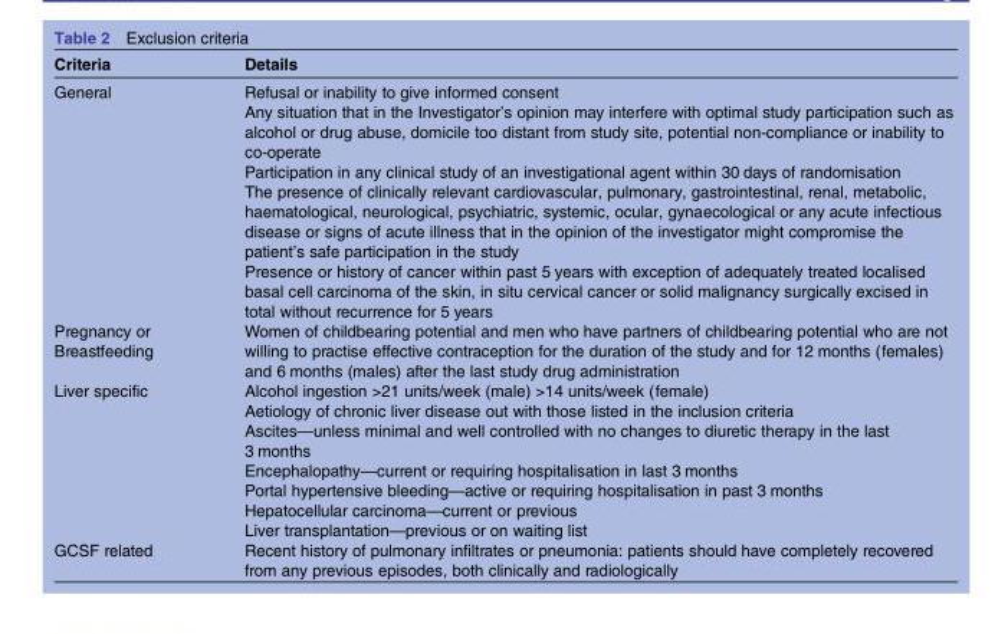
<table><thead><tr><td>Criteria</td><td>Details</td></tr></thead><tbody><tr><td rowspan="5">General</td><td>Refusal or inability to give informed consent</td></tr><tr><td>Any situation that in the Investigator’s opinion may interfere with optimal study participation such as alcohol or drug abuse, domicile too distant from study site, potential non-compliance or inability to co-operate</td></tr><tr><td>Participation in any clinical study of an investigational agent within 30 days of randomisation</td></tr><tr><td>The presence of clinically relevant cardiovascular, pulmonary, gastrointestinal, renal, metabolic, haematological, neurological, psychiatric, systemic, ocular, gynaecological or any acute infectious disease or signs of acute illness that in the opinion of the investigator might compromise the patient’s safe participation in the study</td></tr><tr><td>Presence or history of cancer within past 5 years with exception of adequately treated localised basal cell carcinoma of the skin, in situ cervical cancer or solid malignancy surgically excised in total without recurrence for 5 years</td></tr><tr><td>Pregnancy or Breastfeeding</td><td>Women of childbearing potential and men who have partners of childbearing potential who are not willing to practise effective contraception for the duration of the study and for 12 months (females) and 6 months (males) after the last study drug administration</td></tr><tr><td rowspan="7">Liver specific</td><td>Alcohol ingestion &gt;21 units/week (male) &gt;14 units/week (female)</td></tr><tr><td>Aetiology of chronic liver disease out with those listed in the inclusion criteria</td></tr><tr><td>Ascites—unless minimal and well controlled with no changes to diuretic therapy in the last 3 months</td></tr><tr><td>Encephalopathy—current or requiring hospitalisation in last 3 months</td></tr><tr><td>Portal hypertensive bleeding—active or requiring hospitalisation in past 3 months</td></tr><tr><td>Hepatocellular carcinoma—current or previous</td></tr><tr><td>Liver transplantation—previous or on waiting list</td></tr><tr><td>GCSF related</td><td>Recent history of pulmonary infiltrates or pneumonia: patients should have completely recovered from any previous episodes, both clinically and radiologically</td></tr></tbody></table>